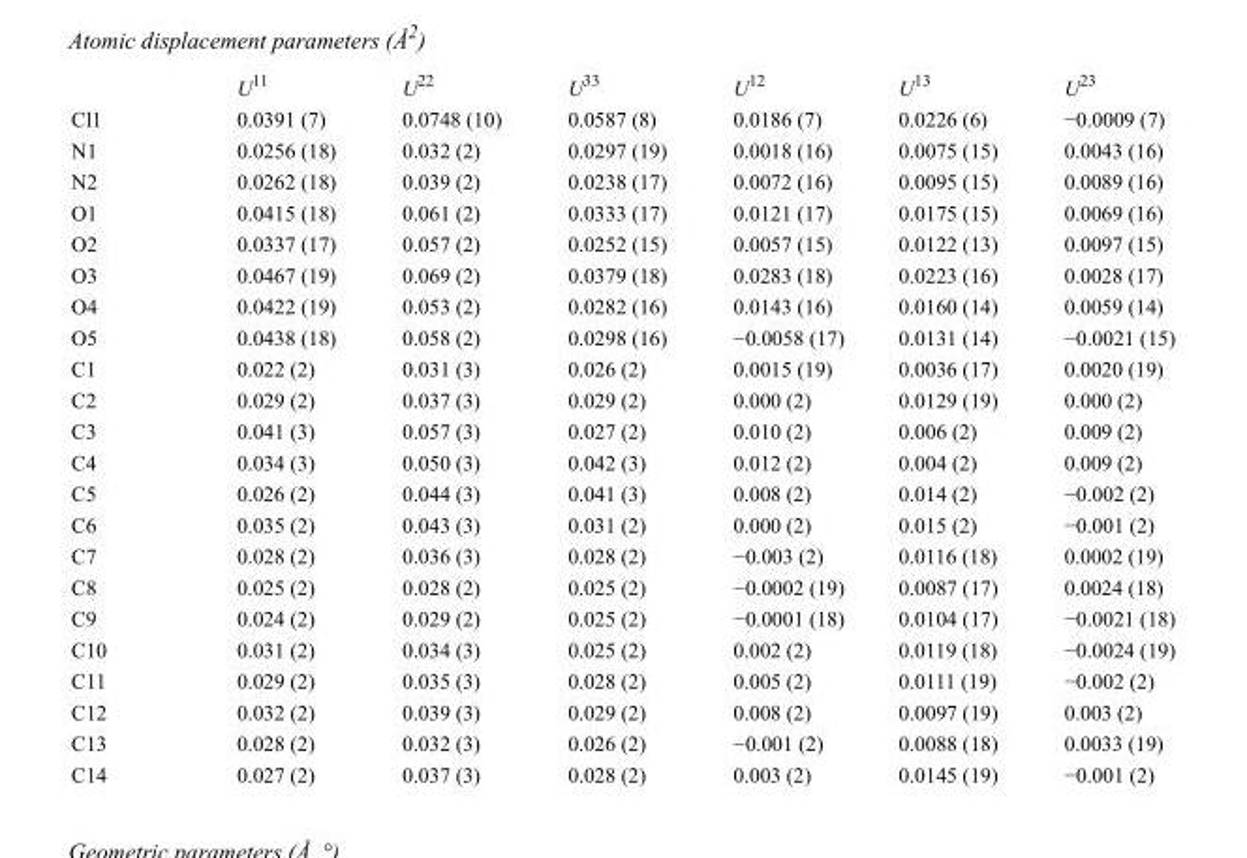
<table><thead><tr><td></td><td>U<sup>11</sup></td><td>U<sup>22</sup></td><td>U<sup>33</sup></td><td>U<sup>12</sup></td><td>U<sup>13</sup></td><td>U<sup>23</sup></td></tr></thead><tbody><tr><td>Cl1</td><td>0.0391 (7)</td><td>0.0748 (10)</td><td>0.0587 (8)</td><td>0.0186 (7)</td><td>0.0226 (6)</td><td>−0.0009 (7)</td></tr><tr><td>N1</td><td>0.0256 (18)</td><td>0.032 (2)</td><td>0.0297 (19)</td><td>0.0018 (16)</td><td>0.0075 (15)</td><td>0.0043 (16)</td></tr><tr><td>N2</td><td>0.0262 (18)</td><td>0.039 (2)</td><td>0.0238 (17)</td><td>0.0072 (16)</td><td>0.0095 (15)</td><td>0.0089 (16)</td></tr><tr><td>O1</td><td>0.0415 (18)</td><td>0.061 (2)</td><td>0.0333 (17)</td><td>0.0121 (17)</td><td>0.0175 (15)</td><td>0.0069 (16)</td></tr><tr><td>O2</td><td>0.0337 (17)</td><td>0.057 (2)</td><td>0.0252 (15)</td><td>0.0057 (15)</td><td>0.0122 (13)</td><td>0.0097 (15)</td></tr><tr><td>O3</td><td>0.0467 (19)</td><td>0.069 (2)</td><td>0.0379 (18)</td><td>0.0283 (18)</td><td>0.0223 (16)</td><td>0.0028 (17)</td></tr><tr><td>O4</td><td>0.0422 (19)</td><td>0.053 (2)</td><td>0.0282 (16)</td><td>0.0143 (16)</td><td>0.0160 (14)</td><td>0.0059 (14)</td></tr><tr><td>O5</td><td>0.0438 (18)</td><td>0.058 (2)</td><td>0.0298 (16)</td><td>−0.0058 (17)</td><td>0.0131 (14)</td><td>−0.0021 (15)</td></tr><tr><td>C1</td><td>0.022 (2)</td><td>0.031 (3)</td><td>0.026 (2)</td><td>0.0015 (19)</td><td>0.0036 (17)</td><td>0.0020 (19)</td></tr><tr><td>C2</td><td>0.029 (2)</td><td>0.037 (3)</td><td>0.029 (2)</td><td>0.000 (2)</td><td>0.0129 (19)</td><td>0.000 (2)</td></tr><tr><td>C3</td><td>0.041 (3)</td><td>0.057 (3)</td><td>0.027 (2)</td><td>0.010 (2)</td><td>0.006 (2)</td><td>0.009 (2)</td></tr><tr><td>C4</td><td>0.034 (3)</td><td>0.050 (3)</td><td>0.042 (3)</td><td>0.012 (2)</td><td>0.004 (2)</td><td>0.009 (2)</td></tr><tr><td>C5</td><td>0.026 (2)</td><td>0.044 (3)</td><td>0.041 (3)</td><td>0.008 (2)</td><td>0.014 (2)</td><td>−0.002 (2)</td></tr><tr><td>C6</td><td>0.035 (2)</td><td>0.043 (3)</td><td>0.031 (2)</td><td>0.000 (2)</td><td>0.015 (2)</td><td>−0.001 (2)</td></tr><tr><td>C7</td><td>0.028 (2)</td><td>0.036 (3)</td><td>0.028 (2)</td><td>−0.003 (2)</td><td>0.0116 (18)</td><td>0.0002 (19)</td></tr><tr><td>C8</td><td>0.025 (2)</td><td>0.028 (2)</td><td>0.025 (2)</td><td>−0.0002 (19)</td><td>0.0087 (17)</td><td>0.0024 (18)</td></tr><tr><td>C9</td><td>0.024 (2)</td><td>0.029 (2)</td><td>0.025 (2)</td><td>−0.0001 (18)</td><td>0.0104 (17)</td><td>−0.0021 (18)</td></tr><tr><td>C10</td><td>0.031 (2)</td><td>0.034 (3)</td><td>0.025 (2)</td><td>0.002 (2)</td><td>0.0119 (18)</td><td>−0.0024 (19)</td></tr><tr><td>C11</td><td>0.029 (2)</td><td>0.035 (3)</td><td>0.028 (2)</td><td>0.005 (2)</td><td>0.0111 (19)</td><td>−0.002 (2)</td></tr><tr><td>C12</td><td>0.032 (2)</td><td>0.039 (3)</td><td>0.029 (2)</td><td>0.008 (2)</td><td>0.0097 (19)</td><td>0.003 (2)</td></tr><tr><td>C13</td><td>0.028 (2)</td><td>0.032 (3)</td><td>0.026 (2)</td><td>−0.001 (2)</td><td>0.0088 (18)</td><td>0.0033 (19)</td></tr><tr><td>C14</td><td>0.027 (2)</td><td>0.037 (3)</td><td>0.028 (2)</td><td>0.003 (2)</td><td>0.0145 (19)</td><td>−0.001 (2)</td></tr></tbody></table>